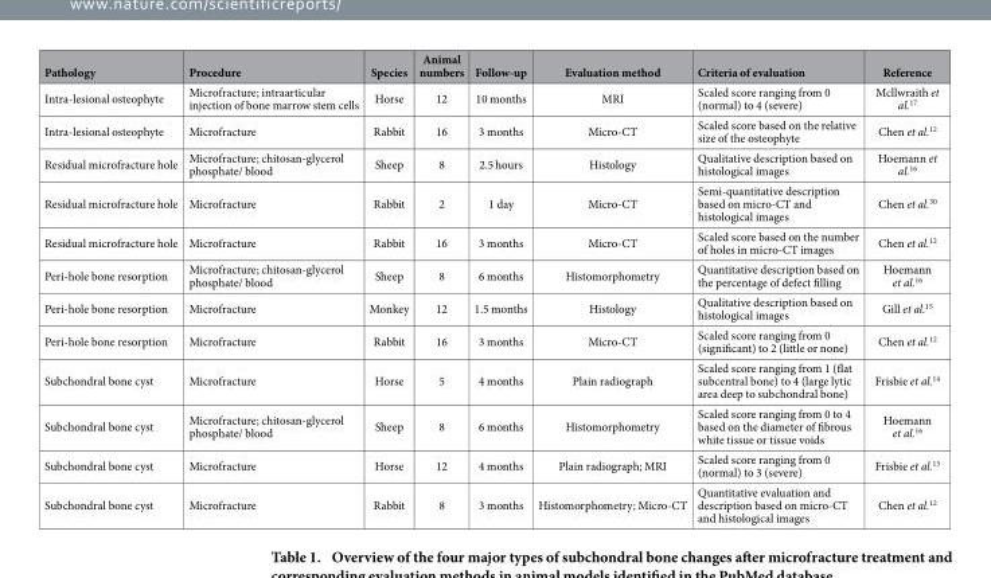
<table><thead><tr><td>Pathology</td><td>Procedure</td><td>Species</td><td>Animal numbers</td><td>Follow-up</td><td>Evaluation method</td><td>Criteria of evaluation</td><td>Reference</td></tr></thead><tbody><tr><td>Intra-lesional osteophyte</td><td>Microfracture; intraarticular injection of bone marrow stem cells</td><td>Horse</td><td>12</td><td>10 months</td><td>MRI</td><td>Scaled score ranging from 0 (normal) to 4 (severe)</td><td>Mcllwraith et al.<sup>17</sup></td></tr><tr><td>Intra-lesional osteophyte</td><td>Microfracture</td><td>Rabbit</td><td>16</td><td>3 months</td><td>Micro-CT</td><td>Scaled score based on the relative size of the osteophyte</td><td>Chen et al.<sup>12</sup></td></tr><tr><td>Residual microfracture hole</td><td>Microfracture; chitosan-glycerol phosphate/ blood</td><td>Sheep</td><td>8</td><td>2.5 hours</td><td>Histology</td><td>Qualitative description based on histological images</td><td>Hoemann et al.<sup>16</sup></td></tr><tr><td>Residual microfracture hole</td><td>Microfracture</td><td>Rabbit</td><td>2</td><td>1 day</td><td>Micro-CT</td><td>Semi-quantitative description based on micro-CT and histological images</td><td>Chen et al.<sup>30</sup></td></tr><tr><td>Residual microfracture hole</td><td>Microfracture</td><td>Rabbit</td><td>16</td><td>3 months</td><td>Micro-CT</td><td>Scaled score based on the number of holes in micro-CT images</td><td>Chen et al.<sup>12</sup></td></tr><tr><td>Peri-hole bone resorption</td><td>Microfracture; chitosan-glycerol phosphate/ blood</td><td>Sheep</td><td>8</td><td>6 months</td><td>Histomorphometry</td><td>Quantitative description based on the percentage of defect filling</td><td>Hoemann et al.<sup>16</sup></td></tr><tr><td>Peri-hole bone resorption</td><td>Microfracture</td><td>Monkey</td><td>12</td><td>1.5 months</td><td>Histology</td><td>Qualitative description based on histological images</td><td>Gill et al.<sup>15</sup></td></tr><tr><td>Peri-hole bone resorption</td><td>Microfracture</td><td>Rabbit</td><td>16</td><td>3 months</td><td>Micro-CT</td><td>Scaled score ranging from 0 (significant) to 2 (little or none)</td><td>Chen et al.<sup>12</sup></td></tr><tr><td>Subchondral bone cyst</td><td>Microfracture</td><td>Horse</td><td>5</td><td>4 months</td><td>Plain radiograph</td><td>Scaled score ranging from 1 (flat subcentral bone) to 4 (large lytic area deep to subchondral bone)</td><td>Frisbie et al.<sup>14</sup></td></tr><tr><td>Subchondral bone cyst</td><td>Microfracture; chitosan-glycerol phosphate/ blood</td><td>Sheep</td><td>8</td><td>6 months</td><td>Histomorphometry</td><td>Scaled score ranging from 0 to 4 based on the diameter of fibrous white tissue or tissue voids</td><td>Hoemann et al.<sup>16</sup></td></tr><tr><td>Subchondral bone cyst</td><td>Microfracture</td><td>Horse</td><td>12</td><td>4 months</td><td>Plain radiograph; MRI</td><td>Scaled score ranging from 0 (normal) to 3 (severe)</td><td>Frisbie et al.<sup>13</sup></td></tr><tr><td>Subchondral bone cyst</td><td>Microfracture</td><td>Rabbit</td><td>8</td><td>3 months</td><td>Histomorphometry; Micro-CT</td><td>Quantitative evaluation and description based on micro-CT and histological images</td><td>Chen et al.<sup>12</sup></td></tr></tbody></table>